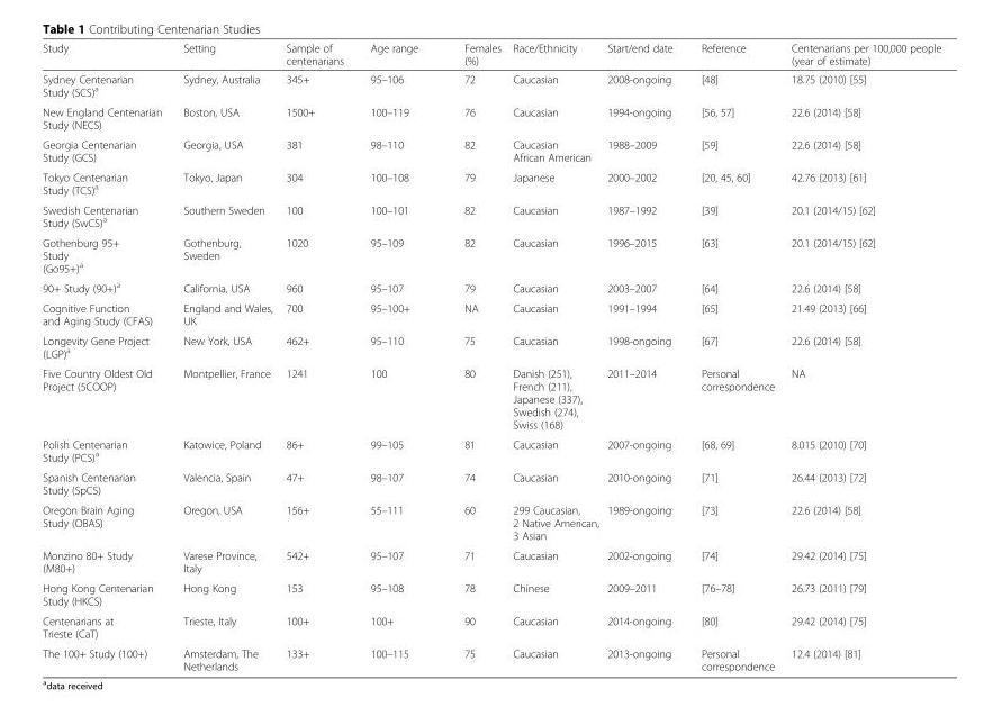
<table><thead><tr><td>Study</td><td>Setting</td><td>Sample of centenarians</td><td>Age range</td><td>Females (%)</td><td>Race/Ethnicity</td><td>Start/end date</td><td>Reference</td><td>Centenarians per 100,000 people (year of estimate)</td></tr></thead><tbody><tr><td>Sydney Centenarian Study (SCS)<sup>a</sup></td><td>Sydney, Australia</td><td>345+</td><td>95–106</td><td>72</td><td>Caucasian</td><td>2008-ongoing</td><td>[48]</td><td>18.75 (2010) [55]</td></tr><tr><td>New England Centenarian Study (NECS)</td><td>Boston, USA</td><td>1500+</td><td>100–119</td><td>76</td><td>Caucasian</td><td>1994-ongoing</td><td>[56, 57]</td><td>22.6 (2014) [58]</td></tr><tr><td>Georgia Centenarian Study (GCS)</td><td>Georgia, USA</td><td>381</td><td>98–110</td><td>82</td><td>Caucasian African American</td><td>1988–2009</td><td>[59]</td><td>22.6 (2014) [58]</td></tr><tr><td>Tokyo Centenarian Study (TCS)<sup>a</sup></td><td>Tokyo, Japan</td><td>304</td><td>100–108</td><td>79</td><td>Japanese</td><td>2000–2002</td><td>[20, 45, 60]</td><td>42.76 (2013) [61]</td></tr><tr><td>Swedish Centenarian Study (SwCS)<sup>a</sup></td><td>Southern Sweden</td><td>100</td><td>100–101</td><td>82</td><td>Caucasian</td><td>1987–1992</td><td>[39]</td><td>20.1 (2014/15) [62]</td></tr><tr><td>Gothenburg 95+ Study (Go95+)<sup>a</sup></td><td>Gothenburg, Sweden</td><td>1020</td><td>95–109</td><td>82</td><td>Caucasian</td><td>1996–2015</td><td>[63]</td><td>20.1 (2014/15) [62]</td></tr><tr><td>90+ Study (90+)<sup>a</sup></td><td>California, USA</td><td>960</td><td>95–107</td><td>79</td><td>Caucasian</td><td>2003–2007</td><td>[64]</td><td>22.6 (2014) [58]</td></tr><tr><td>Cognitive Function and Aging Study (CFAS)</td><td>England and Wales, UK</td><td>700</td><td>95–100+</td><td>NA</td><td>Caucasian</td><td>1991–1994</td><td>[65]</td><td>21.49 (2013) [66]</td></tr><tr><td>Longevity Gene Project (LGP)<sup>a</sup></td><td>New York, USA</td><td>462+</td><td>95–110</td><td>75</td><td>Caucasian</td><td>1998-ongoing</td><td>[67]</td><td>22.6 (2014) [58]</td></tr><tr><td>Five Country Oldest Old Project (5COOP)</td><td>Montpellier, France</td><td>1241</td><td>100</td><td>80</td><td>Danish (251), French (211), Japanese (337), Swedish (274), Swiss (168)</td><td>2011–2014</td><td>Personal correspondence</td><td>NA</td></tr><tr><td>Polish Centenarian Study (PCS)<sup>a</sup></td><td>Katowice, Poland</td><td>86+</td><td>99–105</td><td>81</td><td>Caucasian</td><td>2007-ongoing</td><td>[68, 69]</td><td>8.015 (2010) [70]</td></tr><tr><td>Spanish Centenarian Study (SpCS)</td><td>Valencia, Spain</td><td>47+</td><td>98–107</td><td>74</td><td>Caucasian</td><td>2010-ongoing</td><td>[71]</td><td>26.44 (2013) [72]</td></tr><tr><td>Oregon Brain Aging Study (OBAS)</td><td>Oregon, USA</td><td>156+</td><td>55–111</td><td>60</td><td>299 Caucasian, 2 Native American, 3 Asian</td><td>1989-ongoing</td><td>[73]</td><td>22.6 (2014) [58]</td></tr><tr><td>Monzino 80+ Study (M80+)</td><td>Varese Province, Italy</td><td>542+</td><td>95–107</td><td>71</td><td>Caucasian</td><td>2002-ongoing</td><td>[74]</td><td>29.42 (2014) [75]</td></tr><tr><td>Hong Kong Centenarian Study (HKCS)</td><td>Hong Kong</td><td>153</td><td>95–108</td><td>78</td><td>Chinese</td><td>2009–2011</td><td>[76–78]</td><td>26.73 (2011) [79]</td></tr><tr><td>Centenarians at Trieste (CaT)</td><td>Trieste, Italy</td><td>100+</td><td>100+</td><td>90</td><td>Caucasian</td><td>2014-ongoing</td><td>[80]</td><td>29.42 (2014) [75]</td></tr><tr><td>The 100+ Study (100+)</td><td>Amsterdam, The Netherlands</td><td>133+</td><td>100–115</td><td>75</td><td>Caucasian</td><td>2013-ongoing</td><td>Personal correspondence</td><td>12.4 (2014) [81]</td></tr></tbody></table>